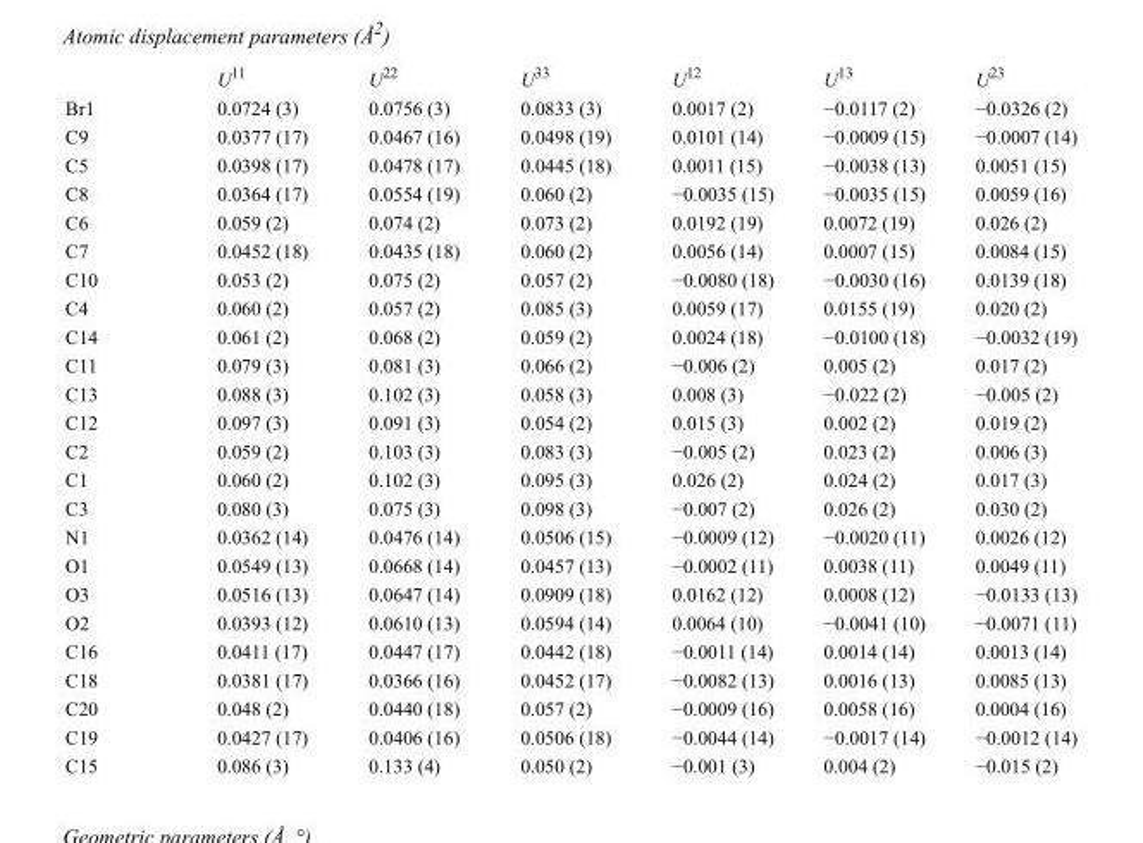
<table><thead><tr><td></td><td>U<sup>11</sup></td><td>U<sup>22</sup></td><td>U<sup>33</sup></td><td>U<sup>12</sup></td><td>U<sup>13</sup></td><td>U<sup>23</sup></td></tr></thead><tbody><tr><td>Br1</td><td>0.0724 (3)</td><td>0.0756 (3)</td><td>0.0833 (3)</td><td>0.0017 (2)</td><td>−0.0117 (2)</td><td>−0.0326 (2)</td></tr><tr><td>C9</td><td>0.0377 (17)</td><td>0.0467 (16)</td><td>0.0498 (19)</td><td>0.0101 (14)</td><td>−0.0009 (15)</td><td>−0.0007 (14)</td></tr><tr><td>C5</td><td>0.0398 (17)</td><td>0.0478 (17)</td><td>0.0445 (18)</td><td>0.0011 (15)</td><td>−0.0038 (13)</td><td>0.0051 (15)</td></tr><tr><td>C8</td><td>0.0364 (17)</td><td>0.0554 (19)</td><td>0.060 (2)</td><td>−0.0035 (15)</td><td>−0.0035 (15)</td><td>0.0059 (16)</td></tr><tr><td>C6</td><td>0.059 (2)</td><td>0.074 (2)</td><td>0.073 (2)</td><td>0.0192 (19)</td><td>0.0072 (19)</td><td>0.026 (2)</td></tr><tr><td>C7</td><td>0.0452 (18)</td><td>0.0435 (18)</td><td>0.060 (2)</td><td>0.0056 (14)</td><td>0.0007 (15)</td><td>0.0084 (15)</td></tr><tr><td>C10</td><td>0.053 (2)</td><td>0.075 (2)</td><td>0.057 (2)</td><td>−0.0080 (18)</td><td>−0.0030 (16)</td><td>0.0139 (18)</td></tr><tr><td>C4</td><td>0.060 (2)</td><td>0.057 (2)</td><td>0.085 (3)</td><td>0.0059 (17)</td><td>0.0155 (19)</td><td>0.020 (2)</td></tr><tr><td>C14</td><td>0.061 (2)</td><td>0.068 (2)</td><td>0.059 (2)</td><td>0.0024 (18)</td><td>−0.0100 (18)</td><td>−0.0032 (19)</td></tr><tr><td>C11</td><td>0.079 (3)</td><td>0.081 (3)</td><td>0.066 (2)</td><td>−0.006 (2)</td><td>0.005 (2)</td><td>0.017 (2)</td></tr><tr><td>C13</td><td>0.088 (3)</td><td>0.102 (3)</td><td>0.058 (3)</td><td>0.008 (3)</td><td>−0.022 (2)</td><td>−0.005 (2)</td></tr><tr><td>C12</td><td>0.097 (3)</td><td>0.091 (3)</td><td>0.054 (2)</td><td>0.015 (3)</td><td>0.002 (2)</td><td>0.019 (2)</td></tr><tr><td>C2</td><td>0.059 (2)</td><td>0.103 (3)</td><td>0.083 (3)</td><td>−0.005 (2)</td><td>0.023 (2)</td><td>0.006 (3)</td></tr><tr><td>C1</td><td>0.060 (2)</td><td>0.102 (3)</td><td>0.095 (3)</td><td>0.026 (2)</td><td>0.024 (2)</td><td>0.017 (3)</td></tr><tr><td>C3</td><td>0.080 (3)</td><td>0.075 (3)</td><td>0.098 (3)</td><td>−0.007 (2)</td><td>0.026 (2)</td><td>0.030 (2)</td></tr><tr><td>N1</td><td>0.0362 (14)</td><td>0.0476 (14)</td><td>0.0506 (15)</td><td>−0.0009 (12)</td><td>−0.0020 (11)</td><td>0.0026 (12)</td></tr><tr><td>O1</td><td>0.0549 (13)</td><td>0.0668 (14)</td><td>0.0457 (13)</td><td>−0.0002 (11)</td><td>0.0038 (11)</td><td>0.0049 (11)</td></tr><tr><td>O3</td><td>0.0516 (13)</td><td>0.0647 (14)</td><td>0.0909 (18)</td><td>0.0162 (12)</td><td>0.0008 (12)</td><td>−0.0133 (13)</td></tr><tr><td>O2</td><td>0.0393 (12)</td><td>0.0610 (13)</td><td>0.0594 (14)</td><td>0.0064 (10)</td><td>−0.0041 (10)</td><td>−0.0071 (11)</td></tr><tr><td>C16</td><td>0.0411 (17)</td><td>0.0447 (17)</td><td>0.0442 (18)</td><td>−0.0011 (14)</td><td>0.0014 (14)</td><td>0.0013 (14)</td></tr><tr><td>C18</td><td>0.0381 (17)</td><td>0.0366 (16)</td><td>0.0452 (17)</td><td>−0.0082 (13)</td><td>0.0016 (13)</td><td>0.0085 (13)</td></tr><tr><td>C20</td><td>0.048 (2)</td><td>0.0440 (18)</td><td>0.057 (2)</td><td>−0.0009 (16)</td><td>0.0058 (16)</td><td>0.0004 (16)</td></tr><tr><td>C19</td><td>0.0427 (17)</td><td>0.0406 (16)</td><td>0.0506 (18)</td><td>−0.0044 (14)</td><td>−0.0017 (14)</td><td>−0.0012 (14)</td></tr><tr><td>C15</td><td>0.086 (3)</td><td>0.133 (4)</td><td>0.050 (2)</td><td>−0.001 (3)</td><td>0.004 (2)</td><td>−0.015 (2)</td></tr></tbody></table>